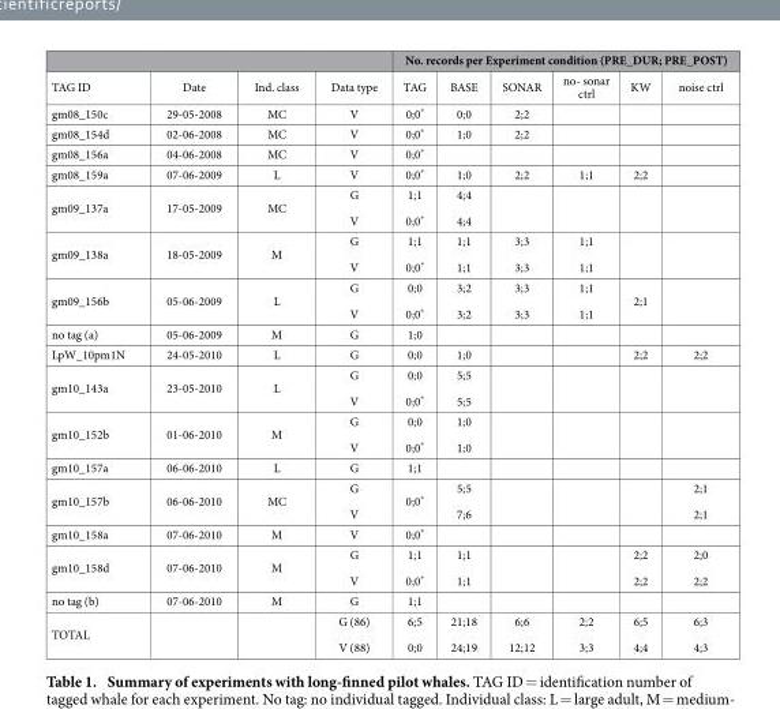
<table><thead><tr><td rowspan="2">TAG ID</td><td rowspan="2">Date</td><td rowspan="2">Ind. class</td><td rowspan="2">Data type</td><td colspan="6">No. records per Experiment condition (PRE_DUR; PRE_POST)</td></tr><tr><td>TAG</td><td>BASE</td><td>SONAR</td><td>no- sonar ctrl</td><td>KW</td><td>noise ctrl</td></tr></thead><tbody><tr><td>gm08_150c</td><td>29-05-2008</td><td>MC</td><td>V</td><td>0;0*</td><td>0;0</td><td>2;2</td><td></td><td></td><td></td></tr><tr><td>gm08_154d</td><td>02-06-2008</td><td>MC</td><td>V</td><td>0;0*</td><td>1;0</td><td>2;2</td><td></td><td></td><td></td></tr><tr><td>gm08_156a</td><td>04-06-2008</td><td>MC</td><td>V</td><td>0;0*</td><td></td><td></td><td></td><td></td><td></td></tr><tr><td>gm08_159a</td><td>07-06-2009</td><td>L</td><td>V</td><td>0;0*</td><td>1;0</td><td>2;2</td><td>1;1</td><td>2;2</td><td></td></tr><tr><td>gm09_137a</td><td>17-05-2009</td><td>MC</td><td>G V</td><td>1;1 0;0*</td><td>4;4 4;4</td><td></td><td></td><td></td><td></td></tr><tr><td>gm09_138a</td><td>18-05-2009</td><td>M</td><td>G V</td><td>1;1 0;0*</td><td>1;1 1;1</td><td>3;3 3;3</td><td>1;1 1;1</td><td></td><td></td></tr><tr><td>gm09_156b</td><td>05-06-2009</td><td>L</td><td>G V</td><td>0;0 0;0*</td><td>3;2 3;2</td><td>3;3 3;3</td><td>1;1 1;1</td><td>2;1</td><td></td></tr><tr><td>no tag (a)</td><td>05-06-2009</td><td>M</td><td>G</td><td>1;0</td><td></td><td></td><td></td><td></td><td></td></tr><tr><td>LpW_10pm1N</td><td>24-05-2010</td><td>L</td><td>G</td><td>0;0</td><td>1;0</td><td></td><td></td><td>2;2</td><td>2;2</td></tr><tr><td>gm10_143a</td><td>23-05-2010</td><td>L</td><td>G V</td><td>0;0 0;0*</td><td>5;5 5;5</td><td></td><td></td><td></td><td></td></tr><tr><td>gm10_152b</td><td>01-06-2010</td><td>M</td><td>G V</td><td>0;0 0;0*</td><td>1;0 1;0</td><td></td><td></td><td></td><td></td></tr><tr><td>gm10_157a</td><td>06-06-2010</td><td>L</td><td>G</td><td>1;1</td><td></td><td></td><td></td><td></td><td></td></tr><tr><td>gm10_157b</td><td>06-06-2010</td><td>MC</td><td>G V</td><td>0;0*</td><td>5;5 7;6</td><td></td><td></td><td></td><td>2;1 2;1</td></tr><tr><td>gm10_158a</td><td>07-06-2010</td><td>M</td><td>V</td><td>0;0*</td><td></td><td></td><td></td><td></td><td></td></tr><tr><td>gm10_158d</td><td>07-06-2010</td><td>M</td><td>G V</td><td>1;1 0;0*</td><td>1;1 1;1</td><td></td><td></td><td>2;2 2;2</td><td>2;0 2;2</td></tr><tr><td>no tag (b)</td><td>07-06-2010</td><td>M</td><td>G</td><td>1;1</td><td></td><td></td><td></td><td></td><td></td></tr><tr><td>TOTAL</td><td></td><td></td><td>G (86) V (88)</td><td>6;5 0;0</td><td>21;18 24;19</td><td>6;6 12;12</td><td>2;2 3;3</td><td>6;5 4;4</td><td>6;3 4;3</td></tr></tbody></table>